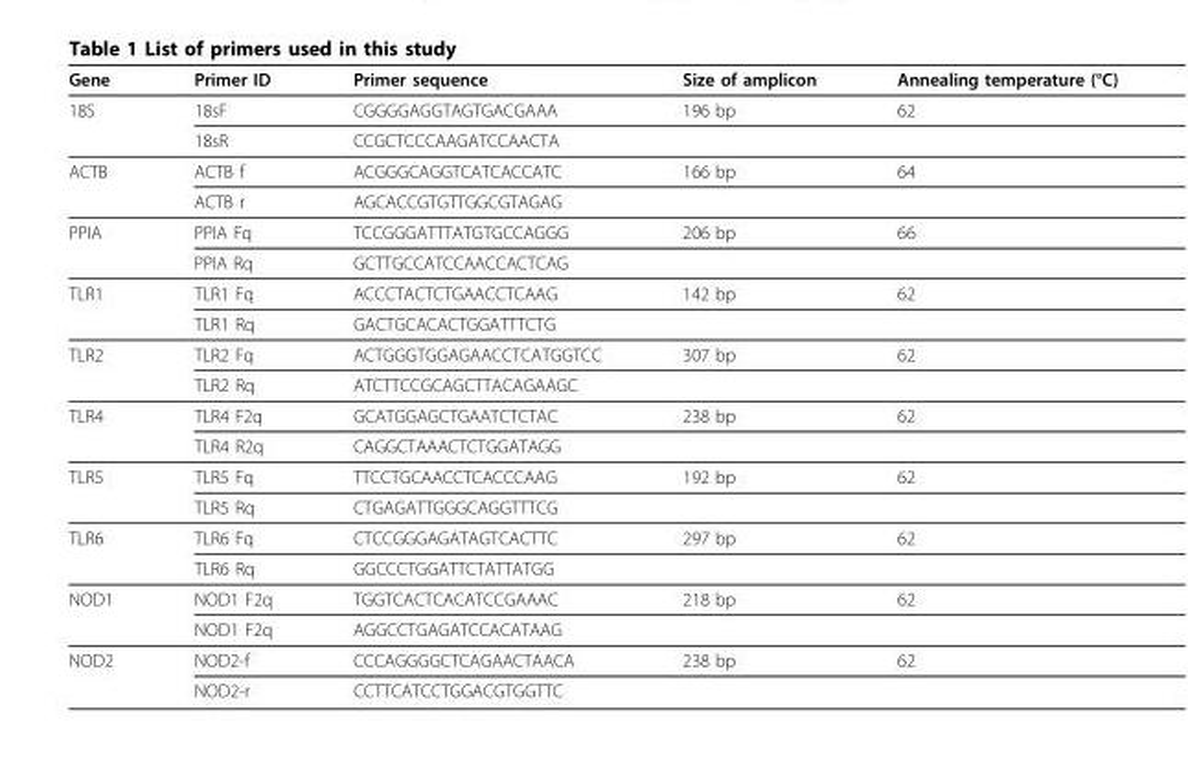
<table><thead><tr><td>Gene</td><td>Primer ID</td><td>Primer sequence</td><td>Size of amplicon</td><td>Annealing temperature (°C)</td></tr></thead><tbody><tr><td rowspan="2">18S</td><td>18sF</td><td>CGGGGAGGTAGTGACGAAA</td><td>196 bp</td><td>62</td></tr><tr><td>18sR</td><td>CCGCTCCCAAGATCCAACTA</td><td></td><td></td></tr><tr><td rowspan="2">ACTB</td><td>ACTB f</td><td>ACGGGCAGGTCATCACCATC</td><td>166 bp</td><td>64</td></tr><tr><td>ACTB r</td><td>AGCACCGTGTTGGCGTAGAG</td><td></td><td></td></tr><tr><td rowspan="2">PPIA</td><td>PPIA Fq</td><td>TCCGGGATTTATGTGCCAGGG</td><td>206 bp</td><td>66</td></tr><tr><td>PPIA Rq</td><td>GCTTGCCATCCAACCACTCAG</td><td></td><td></td></tr><tr><td rowspan="2">TLR1</td><td>TLR1 Fq</td><td>ACCCTACTCTGAACCTCAAG</td><td>142 bp</td><td>62</td></tr><tr><td>TLR1 Rq</td><td>GACTGCACACTGGATTTCTG</td><td></td><td></td></tr><tr><td rowspan="2">TLR2</td><td>TLR2 Fq</td><td>ACTGGGTGGAGAACCTCATGGTCC</td><td>307 bp</td><td>62</td></tr><tr><td>TLR2 Rq</td><td>ATCTTCCGCAGCTTACAGAAGC</td><td></td><td></td></tr><tr><td rowspan="2">TLR4</td><td>TLR4 F2q</td><td>GCATGGAGCTGAATCTCTAC</td><td>238 bp</td><td>62</td></tr><tr><td>TLR4 R2q</td><td>CAGGCTAAACTCTGGATAGG</td><td></td><td></td></tr><tr><td rowspan="2">TLR5</td><td>TLR5 Fq</td><td>TTCCTGCAACCTCACCCAAG</td><td>192 bp</td><td>62</td></tr><tr><td>TLR5 Rq</td><td>CTGAGATTGGGCAGGTTTCG</td><td></td><td></td></tr><tr><td rowspan="2">TLR6</td><td>TLR6 Fq</td><td>CTCCGGGAGATAGTCACTTC</td><td>297 bp</td><td>62</td></tr><tr><td>TLR6 Rq</td><td>GGCCCTGGATTCTATTATGG</td><td></td><td></td></tr><tr><td rowspan="2">NOD1</td><td>NOD1 F2q</td><td>TGGTCACTCACATCCGAAAC</td><td>218 bp</td><td>62</td></tr><tr><td>NOD1 F2q</td><td>AGGCCTGAGATCCACATAAG</td><td></td><td></td></tr><tr><td rowspan="2">NOD2</td><td>NOD2-f</td><td>CCCAGGGGCTCAGAACTAACA</td><td>238 bp</td><td>62</td></tr><tr><td>NOD2-r</td><td>CCTTCATCCTGGACGTGGTTC</td><td></td><td></td></tr></tbody></table>